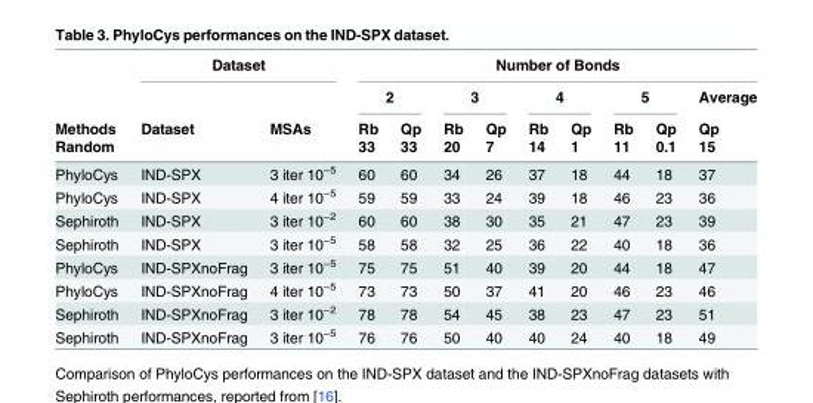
<table><thead><tr><td rowspan="4">Methods Random</td><td colspan="2">Dataset</td><td colspan="9">Number of Bonds</td></tr><tr><td rowspan="3">Dataset</td><td rowspan="3">MSAs</td><td colspan="2">2</td><td colspan="2">3</td><td colspan="2">4</td><td colspan="2">5</td><td rowspan="3">Average Qp 15</td></tr><tr><td rowspan="2">Rb 33</td><td rowspan="2">Qp 33</td><td rowspan="2">Rb 20</td><td rowspan="2">Qp 7</td><td rowspan="2">Rb 14</td><td rowspan="2">Qp 1</td><td rowspan="2">Rb 11</td><td rowspan="2">Qp 0.1</td></tr><tr></tr></thead><tbody><tr><td>PhyloCys</td><td>IND-SPX</td><td>3 iter 10<sup>−5</sup></td><td>60</td><td>60</td><td>34</td><td>26</td><td>37</td><td>18</td><td>44</td><td>18</td><td>37</td></tr><tr><td>PhyloCys</td><td>IND-SPX</td><td>4 iter 10<sup>−5</sup></td><td>59</td><td>59</td><td>33</td><td>24</td><td>39</td><td>18</td><td>46</td><td>23</td><td>36</td></tr><tr><td>Sephiroth</td><td>IND-SPX</td><td>3 iter 10<sup>−2</sup></td><td>60</td><td>60</td><td>38</td><td>30</td><td>35</td><td>21</td><td>47</td><td>23</td><td>39</td></tr><tr><td>Sephiroth</td><td>IND-SPX</td><td>3 iter 10<sup>−5</sup></td><td>58</td><td>58</td><td>32</td><td>25</td><td>36</td><td>22</td><td>40</td><td>18</td><td>36</td></tr><tr><td>PhyloCys</td><td>IND-SPXnoFrag</td><td>3 iter 10<sup>−5</sup></td><td>75</td><td>75</td><td>51</td><td>40</td><td>39</td><td>20</td><td>44</td><td>18</td><td>47</td></tr><tr><td>PhyloCys</td><td>IND-SPXnoFrag</td><td>4 iter 10<sup>−5</sup></td><td>73</td><td>73</td><td>50</td><td>37</td><td>41</td><td>20</td><td>46</td><td>23</td><td>46</td></tr><tr><td>Sephiroth</td><td>IND-SPXnoFrag</td><td>3 iter 10<sup>−2</sup></td><td>78</td><td>78</td><td>54</td><td>45</td><td>38</td><td>23</td><td>47</td><td>23</td><td>51</td></tr><tr><td>Sephiroth</td><td>IND-SPXnoFrag</td><td>3 iter 10<sup>−5</sup></td><td>76</td><td>76</td><td>50</td><td>40</td><td>40</td><td>24</td><td>40</td><td>18</td><td>49</td></tr></tbody></table>